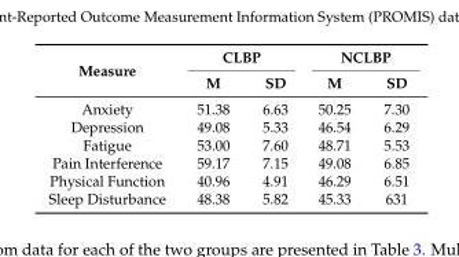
<table><thead><tr><td rowspan="2">Measure</td><td colspan="2">CLBP</td><td colspan="2">NCLBP</td></tr><tr><td>M</td><td>SD</td><td>M</td><td>SD</td></tr></thead><tbody><tr><td>Anxiety</td><td>51.38</td><td>6.63</td><td>50.25</td><td>7.30</td></tr><tr><td>Depression</td><td>49.08</td><td>5.33</td><td>46.54</td><td>6.29</td></tr><tr><td>Fatigue</td><td>53.00</td><td>7.60</td><td>48.71</td><td>5.53</td></tr><tr><td>Pain Interference</td><td>59.17</td><td>7.15</td><td>49.08</td><td>6.85</td></tr><tr><td>Physical Function</td><td>40.96</td><td>4.91</td><td>46.29</td><td>6.51</td></tr><tr><td>Sleep Disturbance</td><td>48.38</td><td>5.82</td><td>45.33</td><td>631</td></tr></tbody></table>